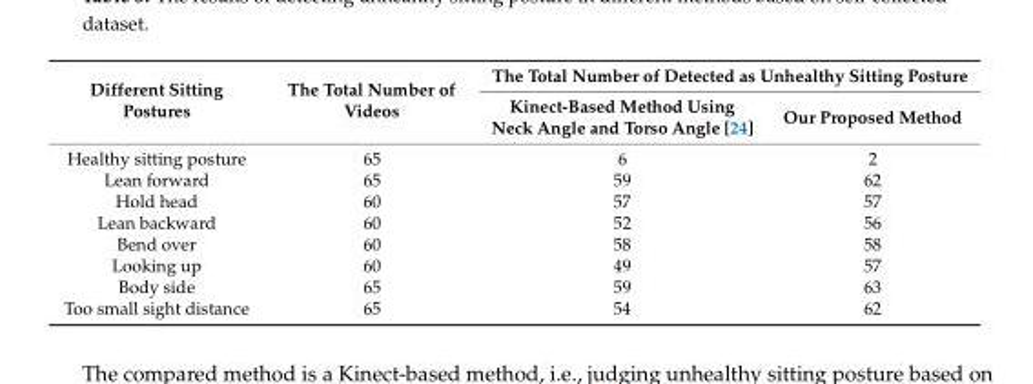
<table><thead><tr><td rowspan="2">Different Sitting Postures</td><td rowspan="2">The Total Number of Videos</td><td colspan="2">The Total Number of Detected as Unhealthy Sitting Posture</td></tr><tr><td>Kinect-Based Method Using Neck Angle and Torso Angle [24]</td><td>Our Proposed Method</td></tr></thead><tbody><tr><td>Healthy sitting posture</td><td>65</td><td>6</td><td>2</td></tr><tr><td>Lean forward</td><td>65</td><td>59</td><td>62</td></tr><tr><td>Hold head</td><td>60</td><td>57</td><td>57</td></tr><tr><td>Lean backward</td><td>60</td><td>52</td><td>56</td></tr><tr><td>Bend over</td><td>60</td><td>58</td><td>58</td></tr><tr><td>Looking up</td><td>60</td><td>49</td><td>57</td></tr><tr><td>Body side</td><td>65</td><td>59</td><td>63</td></tr><tr><td>Too small sight distance</td><td>65</td><td>54</td><td>62</td></tr></tbody></table>